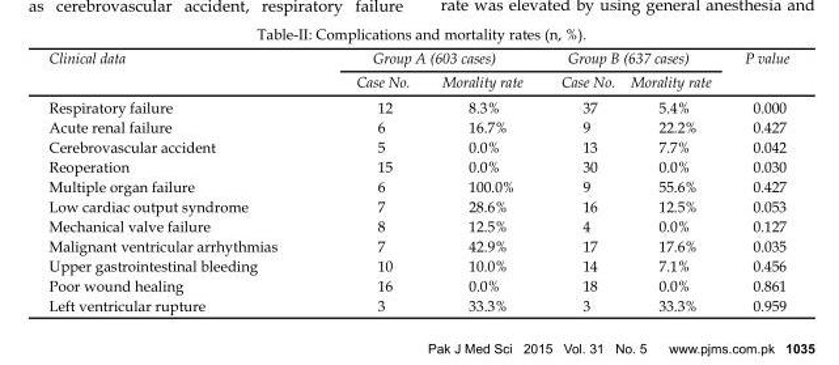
<table><thead><tr><td rowspan="2">Clinical data</td><td colspan="2">Group A (603 cases)</td><td colspan="2">Group B (637 cases)</td><td rowspan="2">P value</td></tr><tr><td>Case No.</td><td>Morality rate</td><td>Case No.</td><td>Morality rate</td></tr></thead><tbody><tr><td>Respiratory failure</td><td>12</td><td>8.3%</td><td>37</td><td>5.4%</td><td>0.000</td></tr><tr><td>Acute renal failure</td><td>6</td><td>16.7%</td><td>9</td><td>22.2%</td><td>0.427</td></tr><tr><td>Cerebrovascular accident</td><td>5</td><td>0.0%</td><td>13</td><td>7.7%</td><td>0.042</td></tr><tr><td>Reoperation</td><td>15</td><td>0.0%</td><td>30</td><td>0.0%</td><td>0.030</td></tr><tr><td>Multiple organ failure</td><td>6</td><td>100.0%</td><td>9</td><td>55.6%</td><td>0.427</td></tr><tr><td>Low cardiac output syndrome</td><td>7</td><td>28.6%</td><td>16</td><td>12.5%</td><td>0.053</td></tr><tr><td>Mechanical valve failure</td><td>8</td><td>12.5%</td><td>4</td><td>0.0%</td><td>0.127</td></tr><tr><td>Malignant ventricular arrhythmias</td><td>7</td><td>42.9%</td><td>17</td><td>17.6%</td><td>0.035</td></tr><tr><td>Upper gastrointestinal bleeding</td><td>10</td><td>10.0%</td><td>14</td><td>7.1%</td><td>0.456</td></tr><tr><td>Poor wound healing</td><td>16</td><td>0.0%</td><td>18</td><td>0.0%</td><td>0.861</td></tr><tr><td>Left ventricular rupture</td><td>3</td><td>33.3%</td><td>3</td><td>33.3%</td><td>0.959</td></tr></tbody></table>